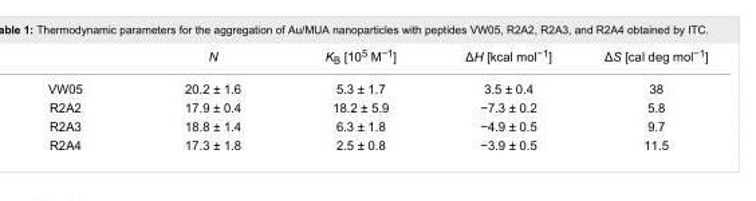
<table><thead><tr><td></td><td>N</td><td>K<sub>B</sub> [10<sup>5</sup> M<sup>−1</sup>]</td><td>ΔH [kcal mol<sup>−1</sup>]</td><td>ΔS [cal deg mol<sup>−1</sup>]</td></tr></thead><tbody><tr><td>VW05</td><td>20.2 ± 1.6</td><td>5.3 ± 1.7</td><td>3.5 ± 0.4</td><td>38</td></tr><tr><td>R2A2</td><td>17.9 ± 0.4</td><td>18.2 ± 5.9</td><td>−7.3 ± 0.2</td><td>5.8</td></tr><tr><td>R2A3</td><td>18.8 ± 1.4</td><td>6.3 ± 1.8</td><td>−4.9 ± 0.5</td><td>9.7</td></tr><tr><td>R2A4</td><td>17.3 ± 1.8</td><td>2.5 ± 0.8</td><td>−3.9 ± 0.5</td><td>11.5</td></tr></tbody></table>